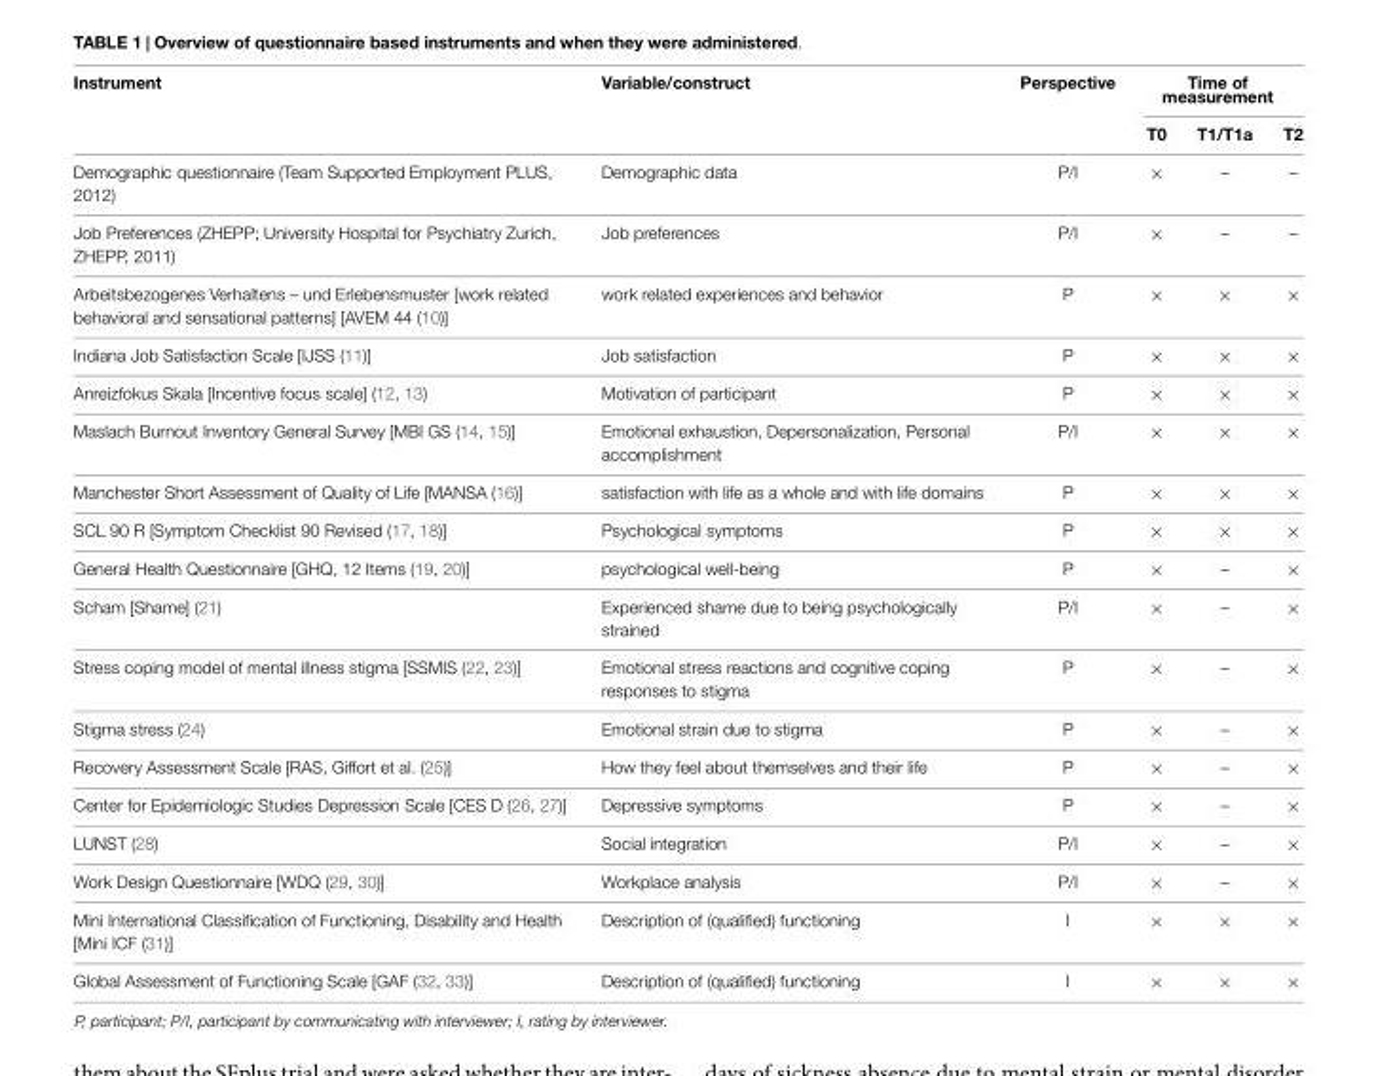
<table><thead><tr><td rowspan="2">Instrument</td><td rowspan="2">Variable/construct</td><td rowspan="2">Perspective</td><td colspan="3">Time of measurement</td></tr><tr><td>T0</td><td>T1/T1a</td><td>T2</td></tr></thead><tbody><tr><td>Demographic questionnaire (Team Supported Employment PLUS, 2012)</td><td>Demographic data</td><td>P/I</td><td>×</td><td>–</td><td>–</td></tr><tr><td>Job Preferences (ZHEPP; University Hospital for Psychiatry Zurich, ZHEPP, 2011)</td><td>Job preferences</td><td>P/I</td><td>×</td><td>–</td><td>–</td></tr><tr><td>Arbeitsbezogenes Verhaltens – und Erlebensmuster [work related behavioral and sensational patterns] [AVEM 44 (10)]</td><td>work related experiences and behavior</td><td>P</td><td>×</td><td>×</td><td>×</td></tr><tr><td>Indiana Job Satisfaction Scale [IJSS (11)]</td><td>Job satisfaction</td><td>P</td><td>×</td><td>×</td><td>×</td></tr><tr><td>Anreizfokus Skala [Incentive focus scale] (12, 13)</td><td>Motivation of participant</td><td>P</td><td>×</td><td>×</td><td>×</td></tr><tr><td>Maslach Burnout Inventory General Survey [MBI GS (14, 15)]</td><td>Emotional exhaustion, Depersonalization, Personal accomplishment</td><td>P/I</td><td>×</td><td>×</td><td>×</td></tr><tr><td>Manchester Short Assessment of Quality of Life [MANSA (16)]</td><td>satisfaction with life as a whole and with life domains</td><td>P</td><td>×</td><td>×</td><td>×</td></tr><tr><td>SCL 90 R [Symptom Checklist 90 Revised (17, 18)]</td><td>Psychological symptoms</td><td>P</td><td>×</td><td>×</td><td>×</td></tr><tr><td>General Health Questionnaire [GHQ, 12 Items (19, 20)]</td><td>psychological well-being</td><td>P</td><td>×</td><td>–</td><td>×</td></tr><tr><td>Scham [Shame] (21)</td><td>Experienced shame due to being psychologically strained</td><td>P/I</td><td>×</td><td>–</td><td>×</td></tr><tr><td>Stress coping model of mental illness stigma [SSMIS (22, 23)]</td><td>Emotional stress reactions and cognitive coping responses to stigma</td><td>P</td><td>×</td><td>–</td><td>×</td></tr><tr><td>Stigma stress (24)</td><td>Emotional strain due to stigma</td><td>P</td><td>×</td><td>–</td><td>×</td></tr><tr><td>Recovery Assessment Scale [RAS, Giffort et al. (25)]</td><td>How they feel about themselves and their life</td><td>P</td><td>×</td><td>–</td><td>×</td></tr><tr><td>Center for Epidemiologic Studies Depression Scale [CES D (26, 27)]</td><td>Depressive symptoms</td><td>P</td><td>×</td><td>–</td><td>×</td></tr><tr><td>LUNST (28)</td><td>Social integration</td><td>P/I</td><td>×</td><td>–</td><td>×</td></tr><tr><td>Work Design Questionnaire [WDQ (29, 30)]</td><td>Workplace analysis</td><td>P/I</td><td>×</td><td>–</td><td>×</td></tr><tr><td>Mini International Classification of Functioning, Disability and Health [Mini ICF (31)]</td><td>Description of (qualified) functioning</td><td>I</td><td>×</td><td>×</td><td>×</td></tr><tr><td>Global Assessment of Functioning Scale [GAF (32, 33)]</td><td>Description of (qualified) functioning</td><td>I</td><td>×</td><td>×</td><td>×</td></tr></tbody></table>